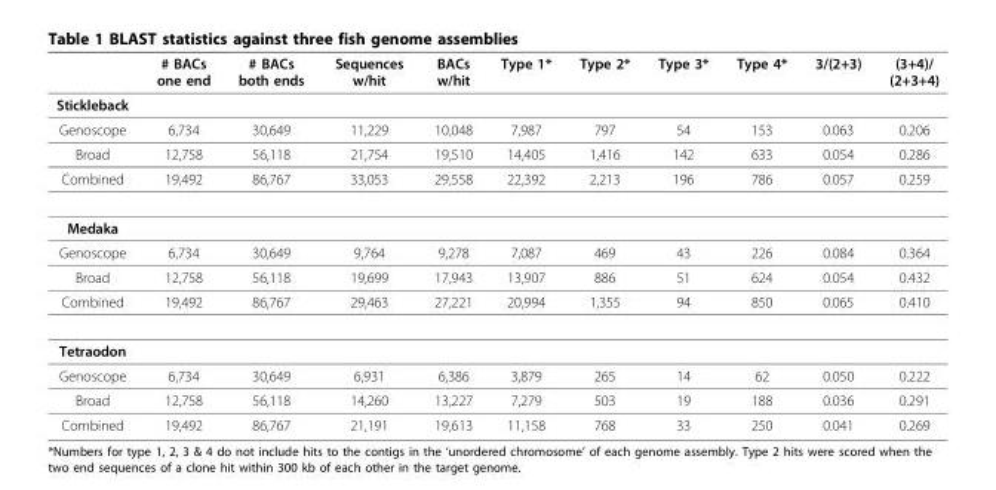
<table><thead><tr><td></td><td># BACs one end</td><td># BACs both ends</td><td>Sequences w/hit</td><td>BACs w/hit</td><td>Type 1*</td><td>Type 2*</td><td>Type 3*</td><td>Type 4*</td><td>3/(2+3)</td><td>(3+4)/ (2+3+4)</td></tr></thead><tbody><tr><td colspan="11">Stickleback</td></tr><tr><td>Genoscope</td><td>6,734</td><td>30,649</td><td>11,229</td><td>10,048</td><td>7,987</td><td>797</td><td>54</td><td>153</td><td>0.063</td><td>0.206</td></tr><tr><td>Broad</td><td>12,758</td><td>56,118</td><td>21,754</td><td>19,510</td><td>14,405</td><td>1,416</td><td>142</td><td>633</td><td>0.054</td><td>0.286</td></tr><tr><td>Combined</td><td>19,492</td><td>86,767</td><td>33,053</td><td>29,558</td><td>22,392</td><td>2,213</td><td>196</td><td>786</td><td>0.057</td><td>0.259</td></tr><tr><td colspan="11">Medaka</td></tr><tr><td>Genoscope</td><td>6,734</td><td>30,649</td><td>9,764</td><td>9,278</td><td>7,087</td><td>469</td><td>43</td><td>226</td><td>0.084</td><td>0.364</td></tr><tr><td>Broad</td><td>12,758</td><td>56,118</td><td>19,699</td><td>17,943</td><td>13,907</td><td>886</td><td>51</td><td>624</td><td>0.054</td><td>0.432</td></tr><tr><td>Combined</td><td>19,492</td><td>86,767</td><td>29,463</td><td>27,221</td><td>20,994</td><td>1,355</td><td>94</td><td>850</td><td>0.065</td><td>0.410</td></tr><tr><td colspan="11">Tetraodon</td></tr><tr><td>Genoscope</td><td>6,734</td><td>30,649</td><td>6,931</td><td>6,386</td><td>3,879</td><td>265</td><td>14</td><td>62</td><td>0.050</td><td>0.222</td></tr><tr><td>Broad</td><td>12,758</td><td>56,118</td><td>14,260</td><td>13,227</td><td>7,279</td><td>503</td><td>19</td><td>188</td><td>0.036</td><td>0.291</td></tr><tr><td>Combined</td><td>19,492</td><td>86,767</td><td>21,191</td><td>19,613</td><td>11,158</td><td>768</td><td>33</td><td>250</td><td>0.041</td><td>0.269</td></tr></tbody></table>